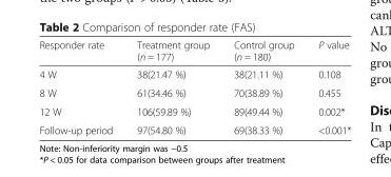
<table><thead><tr><td>Responder rate</td><td>Treatment group (n = 177)</td><td>Control group (n = 180)</td><td>P value</td></tr></thead><tbody><tr><td>4 W</td><td>38(21.47 %)</td><td>38(21.11 %)</td><td>0.108</td></tr><tr><td>8 W</td><td>61(34.46 %)</td><td>70(38.89 %)</td><td>0.455</td></tr><tr><td>12 W</td><td>106(59.89 %)</td><td>89(49.44 %)</td><td>0.002*</td></tr><tr><td>Follow-up period</td><td>97(54.80 %)</td><td>69(38.33 %)</td><td>&lt;0.001*</td></tr></tbody></table>